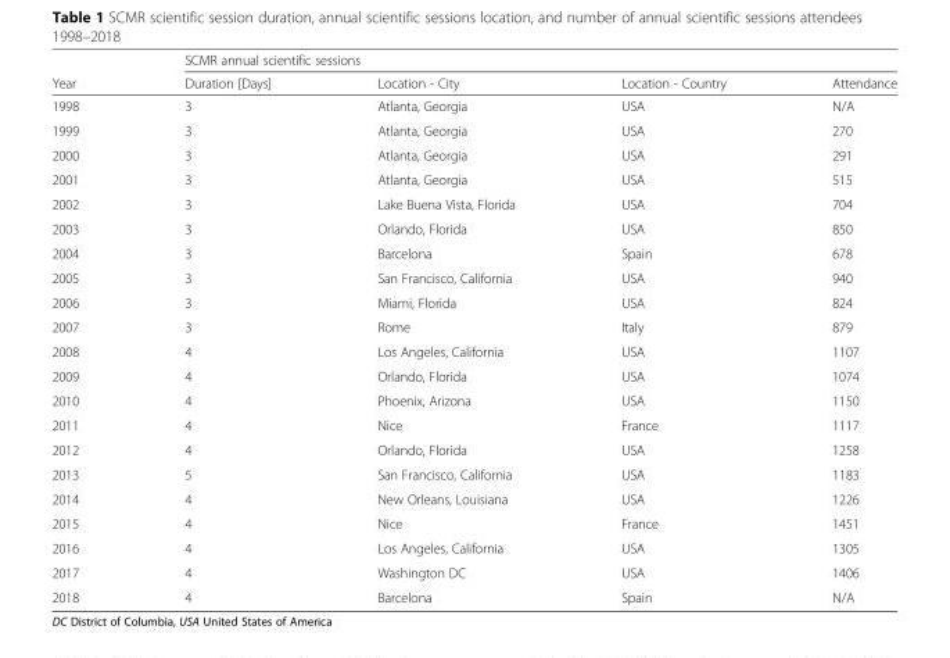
<table><thead><tr><td rowspan="2">Year</td><td colspan="4">SCMR annual scientific sessions</td></tr><tr><td>Duration [Days]</td><td>Location - City</td><td>Location - Country</td><td>Attendance</td></tr></thead><tbody><tr><td>1998</td><td>3</td><td>Atlanta, Georgia</td><td>USA</td><td>N/A</td></tr><tr><td>1999</td><td>3</td><td>Atlanta, Georgia</td><td>USA</td><td>270</td></tr><tr><td>2000</td><td>3</td><td>Atlanta, Georgia</td><td>USA</td><td>291</td></tr><tr><td>2001</td><td>3</td><td>Atlanta, Georgia</td><td>USA</td><td>515</td></tr><tr><td>2002</td><td>3</td><td>Lake Buena Vista, Florida</td><td>USA</td><td>704</td></tr><tr><td>2003</td><td>3</td><td>Orlando, Florida</td><td>USA</td><td>850</td></tr><tr><td>2004</td><td>3</td><td>Barcelona</td><td>Spain</td><td>678</td></tr><tr><td>2005</td><td>3</td><td>San Francisco, California</td><td>USA</td><td>940</td></tr><tr><td>2006</td><td>3</td><td>Miami, Florida</td><td>USA</td><td>824</td></tr><tr><td>2007</td><td>3</td><td>Rome</td><td>Italy</td><td>879</td></tr><tr><td>2008</td><td>4</td><td>Los Angeles, California</td><td>USA</td><td>1107</td></tr><tr><td>2009</td><td>4</td><td>Orlando, Florida</td><td>USA</td><td>1074</td></tr><tr><td>2010</td><td>4</td><td>Phoenix, Arizona</td><td>USA</td><td>1150</td></tr><tr><td>2011</td><td>4</td><td>Nice</td><td>France</td><td>1117</td></tr><tr><td>2012</td><td>4</td><td>Orlando, Florida</td><td>USA</td><td>1258</td></tr><tr><td>2013</td><td>5</td><td>San Francisco, California</td><td>USA</td><td>1183</td></tr><tr><td>2014</td><td>4</td><td>New Orleans, Louisiana</td><td>USA</td><td>1226</td></tr><tr><td>2015</td><td>4</td><td>Nice</td><td>France</td><td>1451</td></tr><tr><td>2016</td><td>4</td><td>Los Angeles, California</td><td>USA</td><td>1305</td></tr><tr><td>2017</td><td>4</td><td>Washington DC</td><td>USA</td><td>1406</td></tr><tr><td>2018</td><td>4</td><td>Barcelona</td><td>Spain</td><td>N/A</td></tr></tbody></table>